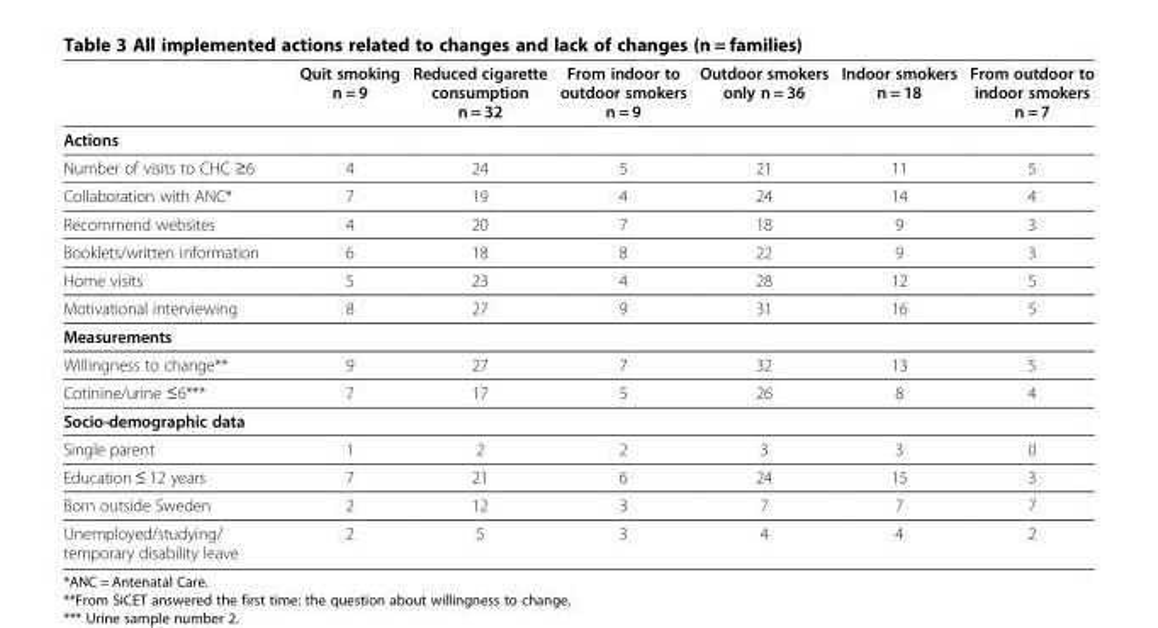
<table><thead><tr><td></td><td>Quit smoking n = 9</td><td>Reduced cigarette consumption n = 32</td><td>From indoor to outdoor smokers n = 9</td><td>Outdoor smokers only n = 36</td><td>Indoor smokers n = 18</td><td>From outdoor to indoor smokers n = 7</td></tr></thead><tbody><tr><td colspan="7">Actions</td></tr><tr><td>Number of visits to CHC ≥6</td><td>4</td><td>24</td><td>5</td><td>21</td><td>11</td><td>5</td></tr><tr><td>Collaboration with ANC*</td><td>7</td><td>19</td><td>4</td><td>24</td><td>14</td><td>4</td></tr><tr><td>Recommend websites</td><td>4</td><td>20</td><td>7</td><td>18</td><td>9</td><td>3</td></tr><tr><td>Booklets/written information</td><td>6</td><td>18</td><td>8</td><td>22</td><td>9</td><td>3</td></tr><tr><td>Home visits</td><td>5</td><td>23</td><td>4</td><td>28</td><td>12</td><td>5</td></tr><tr><td>Motivational interviewing</td><td>8</td><td>27</td><td>9</td><td>31</td><td>16</td><td>5</td></tr><tr><td colspan="7">Measurements</td></tr><tr><td>Willingness to change**</td><td>9</td><td>27</td><td>7</td><td>32</td><td>13</td><td>5</td></tr><tr><td>Cotinine/urine ≤6***</td><td>7</td><td>17</td><td>5</td><td>26</td><td>8</td><td>4</td></tr><tr><td colspan="7">Socio-demographic data</td></tr><tr><td>Single parent</td><td>1</td><td>2</td><td>2</td><td>3</td><td>3</td><td>0</td></tr><tr><td>Education ≤ 12 years</td><td>7</td><td>21</td><td>6</td><td>24</td><td>15</td><td>3</td></tr><tr><td>Born outside Sweden</td><td>2</td><td>12</td><td>3</td><td>7</td><td>7</td><td>7</td></tr><tr><td>Unemployed/studying/ temporary disability leave</td><td>2</td><td>5</td><td>3</td><td>4</td><td>4</td><td>2</td></tr></tbody></table>